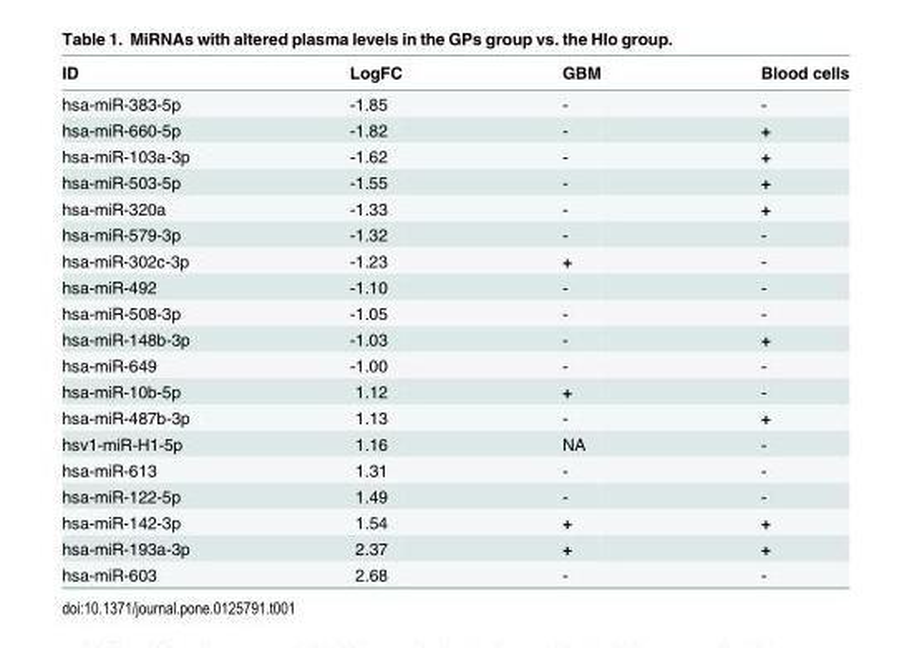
<table><thead><tr><td>ID</td><td>LogFC</td><td>GBM</td><td>Blood cells</td></tr></thead><tbody><tr><td>hsa-miR-383-5p</td><td>-1.85</td><td>-</td><td>-</td></tr><tr><td>hsa-miR-660-5p</td><td>-1.82</td><td>-</td><td>+</td></tr><tr><td>hsa-miR-103a-3p</td><td>-1.62</td><td>-</td><td>+</td></tr><tr><td>hsa-miR-503-5p</td><td>-1.55</td><td>-</td><td>+</td></tr><tr><td>hsa-miR-320a</td><td>-1.33</td><td>-</td><td>+</td></tr><tr><td>hsa-miR-579-3p</td><td>-1.32</td><td>-</td><td>-</td></tr><tr><td>hsa-miR-302c-3p</td><td>-1.23</td><td>+</td><td>-</td></tr><tr><td>hsa-miR-492</td><td>-1.10</td><td>-</td><td>-</td></tr><tr><td>hsa-miR-508-3p</td><td>-1.05</td><td>-</td><td>-</td></tr><tr><td>hsa-miR-148b-3p</td><td>-1.03</td><td>-</td><td>+</td></tr><tr><td>hsa-miR-649</td><td>-1.00</td><td>-</td><td>-</td></tr><tr><td>hsa-miR-10b-5p</td><td>1.12</td><td>+</td><td>-</td></tr><tr><td>hsa-miR-487b-3p</td><td>1.13</td><td>-</td><td>+</td></tr><tr><td>hsv1-miR-H1-5p</td><td>1.16</td><td>NA</td><td>-</td></tr><tr><td>hsa-miR-613</td><td>1.31</td><td>-</td><td>-</td></tr><tr><td>hsa-miR-122-5p</td><td>1.49</td><td>-</td><td>-</td></tr><tr><td>hsa-miR-142-3p</td><td>1.54</td><td>+</td><td>+</td></tr><tr><td>hsa-miR-193a-3p</td><td>2.37</td><td>+</td><td>+</td></tr><tr><td>hsa-miR-603</td><td>2.68</td><td>-</td><td>-</td></tr></tbody></table>